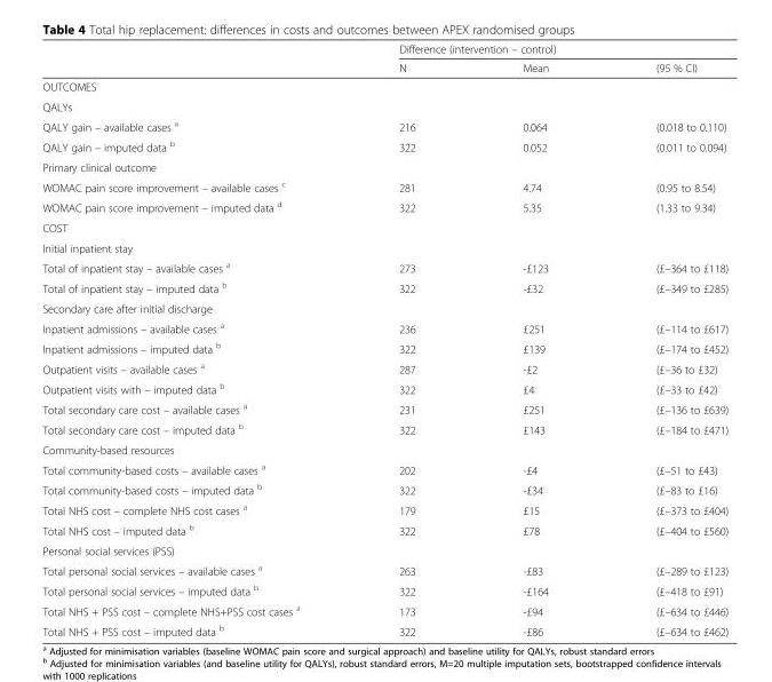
<table><thead><tr><td rowspan="2"></td><td colspan="3">Difference (intervention – control)</td></tr><tr><td>N</td><td>Mean</td><td>(95 % CI)</td></tr></thead><tbody><tr><td colspan="4">OUTCOMES</td></tr><tr><td colspan="4">QALYs</td></tr><tr><td>QALY gain – available cases <sup>a</sup></td><td>216</td><td>0.064</td><td>(0.018 to 0.110)</td></tr><tr><td>QALY gain – imputed data <sup>b</sup></td><td>322</td><td>0.052</td><td>(0.011 to 0.094)</td></tr><tr><td colspan="4">Primary clinical outcome</td></tr><tr><td>WOMAC pain score improvement – available cases <sup>c</sup></td><td>281</td><td>4.74</td><td>(0.95 to 8.54)</td></tr><tr><td>WOMAC pain score improvement – imputed data <sup>d</sup></td><td>322</td><td>5.35</td><td>(1.33 to 9.34)</td></tr><tr><td colspan="4">COST</td></tr><tr><td colspan="4">Initial inpatient stay</td></tr><tr><td>Total of inpatient stay – available cases <sup>a</sup></td><td>273</td><td>-£123</td><td>(£–364 to £118)</td></tr><tr><td>Total of inpatient stay – imputed data <sup>b</sup></td><td>322</td><td>-£32</td><td>(£–349 to £285)</td></tr><tr><td colspan="4">Secondary care after initial discharge</td></tr><tr><td>Inpatient admissions – available cases <sup>a</sup></td><td>236</td><td>£251</td><td>(£–114 to £617)</td></tr><tr><td>Inpatient admissions – imputed data <sup>b</sup></td><td>322</td><td>£139</td><td>(£–174 to £452)</td></tr><tr><td>Outpatient visits – available cases <sup>a</sup></td><td>287</td><td>-£2</td><td>(£–36 to £32)</td></tr><tr><td>Outpatient visits with – imputed data <sup>b</sup></td><td>322</td><td>£4</td><td>(£–33 to £42)</td></tr><tr><td>Total secondary care cost – available cases <sup>a</sup></td><td>231</td><td>£251</td><td>(£–136 to £639)</td></tr><tr><td>Total secondary care cost – imputed data <sup>b</sup></td><td>322</td><td>£143</td><td>(£–184 to £471)</td></tr><tr><td colspan="4">Community-based resources</td></tr><tr><td>Total community-based costs – available cases <sup>a</sup></td><td>202</td><td>-£4</td><td>(£–51 to £43)</td></tr><tr><td>Total community-based costs – imputed data <sup>b</sup></td><td>322</td><td>-£34</td><td>(£–83 to £16)</td></tr><tr><td>Total NHS cost – complete NHS cost cases <sup>a</sup></td><td>179</td><td>£15</td><td>(£–373 to £404)</td></tr><tr><td>Total NHS cost – imputed data <sup>b</sup></td><td>322</td><td>£78</td><td>(£–404 to £560)</td></tr><tr><td colspan="4">Personal social services (PSS)</td></tr><tr><td>Total personal social services – available cases <sup>a</sup></td><td>263</td><td>-£83</td><td>(£–289 to £123)</td></tr><tr><td>Total personal social services – imputed data <sup>b</sup></td><td>322</td><td>-£164</td><td>(£–418 to £91)</td></tr><tr><td>Total NHS + PSS cost – complete NHS+PSS cost cases <sup>a</sup></td><td>173</td><td>-£94</td><td>(£–634 to £446)</td></tr><tr><td>Total NHS + PSS cost – imputed data <sup>b</sup></td><td>322</td><td>-£86</td><td>(£–634 to £462)</td></tr></tbody></table>